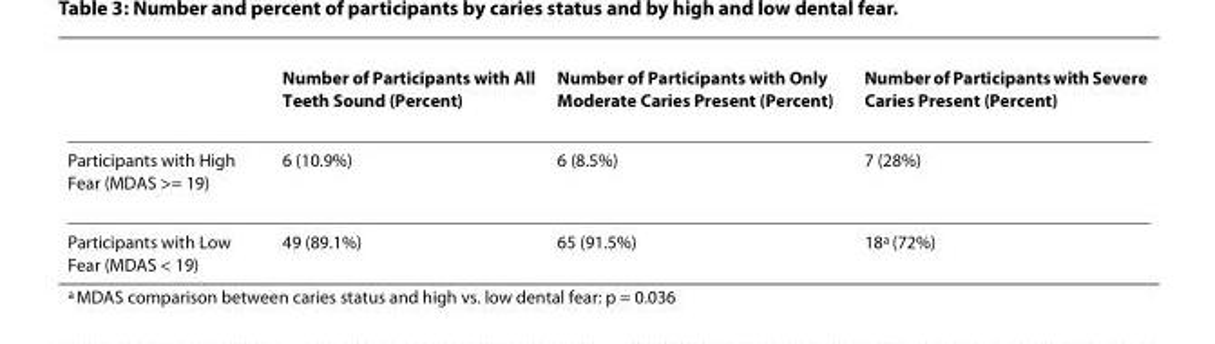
<table><thead><tr><td></td><td>Number of Participants with All Teeth Sound (Percent)</td><td>Number of Participants with Only Moderate Caries Present (Percent)</td><td>Number of Participants with Severe Caries Present (Percent)</td></tr></thead><tbody><tr><td>Participants with High Fear (MDAS &gt;= 19)</td><td>6 (10.9%)</td><td>6 (8.5%)</td><td>7 (28%)</td></tr><tr><td>Participants with Low Fear (MDAS &lt; 19)</td><td>49 (89.1%)</td><td>65 (91.5%)</td><td>18<sup>a</sup> (72%)</td></tr></tbody></table>